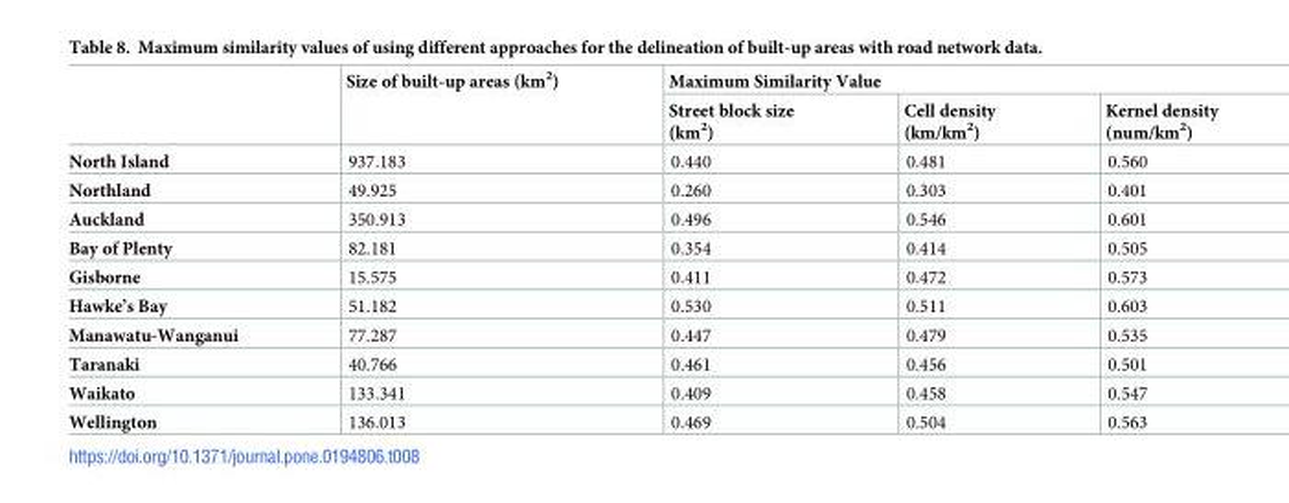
<table><thead><tr><td rowspan="2"></td><td rowspan="2">Size of built-up areas (km<sup>2</sup>)</td><td colspan="3">Maximum Similarity Value</td></tr><tr><td>Street block size (km<sup>2</sup>)</td><td>Cell density (km/km<sup>2</sup>)</td><td>Kernel density (num/km<sup>2</sup>)</td></tr></thead><tbody><tr><td>North Island</td><td>937.183</td><td>0.440</td><td>0.481</td><td>0.560</td></tr><tr><td>Northland</td><td>49.925</td><td>0.260</td><td>0.303</td><td>0.401</td></tr><tr><td>Auckland</td><td>350.913</td><td>0.496</td><td>0.546</td><td>0.601</td></tr><tr><td>Bay of Plenty</td><td>82.181</td><td>0.354</td><td>0.414</td><td>0.505</td></tr><tr><td>Gisborne</td><td>15.575</td><td>0.411</td><td>0.472</td><td>0.573</td></tr><tr><td>Hawke’s Bay</td><td>51.182</td><td>0.530</td><td>0.511</td><td>0.603</td></tr><tr><td>Manawatu-Wanganui</td><td>77.287</td><td>0.447</td><td>0.479</td><td>0.535</td></tr><tr><td>Taranaki</td><td>40.766</td><td>0.461</td><td>0.456</td><td>0.501</td></tr><tr><td>Waikato</td><td>133.341</td><td>0.409</td><td>0.458</td><td>0.547</td></tr><tr><td>Wellington</td><td>136.013</td><td>0.469</td><td>0.504</td><td>0.563</td></tr></tbody></table>